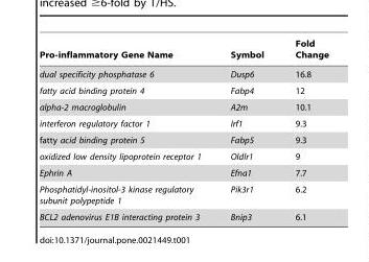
<table><thead><tr><td>Pro-inflammatory Gene Name</td><td>Symbol</td><td>Fold Change</td></tr></thead><tbody><tr><td>dual specificity phosphatase 6</td><td>Dusp6</td><td>16.8</td></tr><tr><td>fatty acid binding protein 4</td><td>Fabp4</td><td>12</td></tr><tr><td>alpha-2 macroglobulin</td><td>A2m</td><td>10.1</td></tr><tr><td>interferon regulatory factor 1</td><td>Irf1</td><td>9.3</td></tr><tr><td>fatty acid binding protein 5</td><td>Fabp5</td><td>9.3</td></tr><tr><td>oxidized low density lipoprotein receptor 1</td><td>Oldlr1</td><td>9</td></tr><tr><td>Ephrin A</td><td>Efna1</td><td>7.7</td></tr><tr><td>Phosphatidyl-inositol-3 kinase regulatory subunit polypeptide 1</td><td>Pik3r1</td><td>6.2</td></tr><tr><td>BCL2 adenovirus E1B interacting protein 3</td><td>Bnip3</td><td>6.1</td></tr></tbody></table>